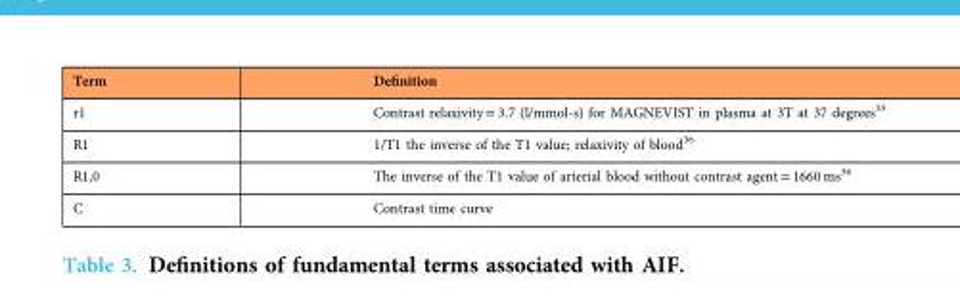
<table><thead><tr><td>Term</td><td>Definition</td></tr></thead><tbody><tr><td>r1</td><td>Contrast relaxivity = 3.7 (l/mmol-s) for MAGNEVIST in plasma at 3T at 37 degrees<sup>35</sup></td></tr><tr><td>R1</td><td>1/T1 the inverse of the T1 value; relaxivity of blood<sup>36</sup></td></tr><tr><td>R1,0</td><td>The inverse of the T1 value of arterial blood without contrast agent = 1660 ms<sup>36</sup></td></tr><tr><td>C</td><td>Contrast time curve</td></tr></tbody></table>